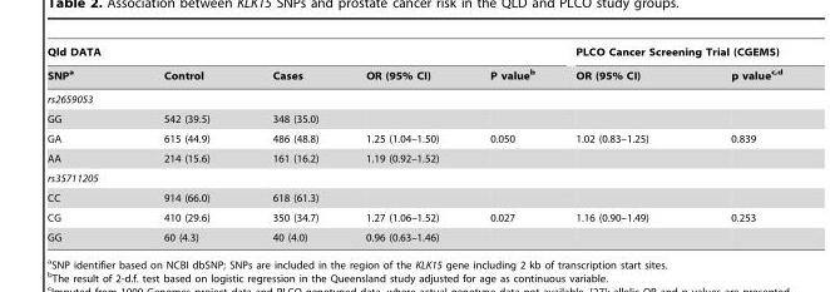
<table><thead><tr><td colspan="5">Qld DATA</td><td colspan="2">PLCO Cancer Screening Trial (CGEMS)</td></tr><tr><td>SNP<sup>a</sup></td><td>Control</td><td>Cases</td><td>OR (95% CI)</td><td>P value<sup>b</sup></td><td>OR (95% CI)</td><td>p value<sup>c,</sup>d</td></tr></thead><tbody><tr><td colspan="7">rs2659053</td></tr><tr><td>GG</td><td>542 (39.5)</td><td>348 (35.0)</td><td></td><td></td><td></td><td></td></tr><tr><td>GA</td><td>615 (44.9)</td><td>486 (48.8)</td><td>1.25 (1.04–1.50)</td><td>0.050</td><td>1.02 (0.83–1.25)</td><td>0.839</td></tr><tr><td>AA</td><td>214 (15.6)</td><td>161 (16.2)</td><td>1.19 (0.92–1.52)</td><td></td><td></td><td></td></tr><tr><td colspan="7">rs35711205</td></tr><tr><td>CC</td><td>914 (66.0)</td><td>618 (61.3)</td><td></td><td></td><td></td><td></td></tr><tr><td>CG</td><td>410 (29.6)</td><td>350 (34.7)</td><td>1.27 (1.06–1.52)</td><td>0.027</td><td>1.16 (0.90–1.49)</td><td>0.253</td></tr><tr><td>GG</td><td>60 (4.3)</td><td>40 (4.0)</td><td>0.96 (0.63–1.46)</td><td></td><td></td><td></td></tr></tbody></table>